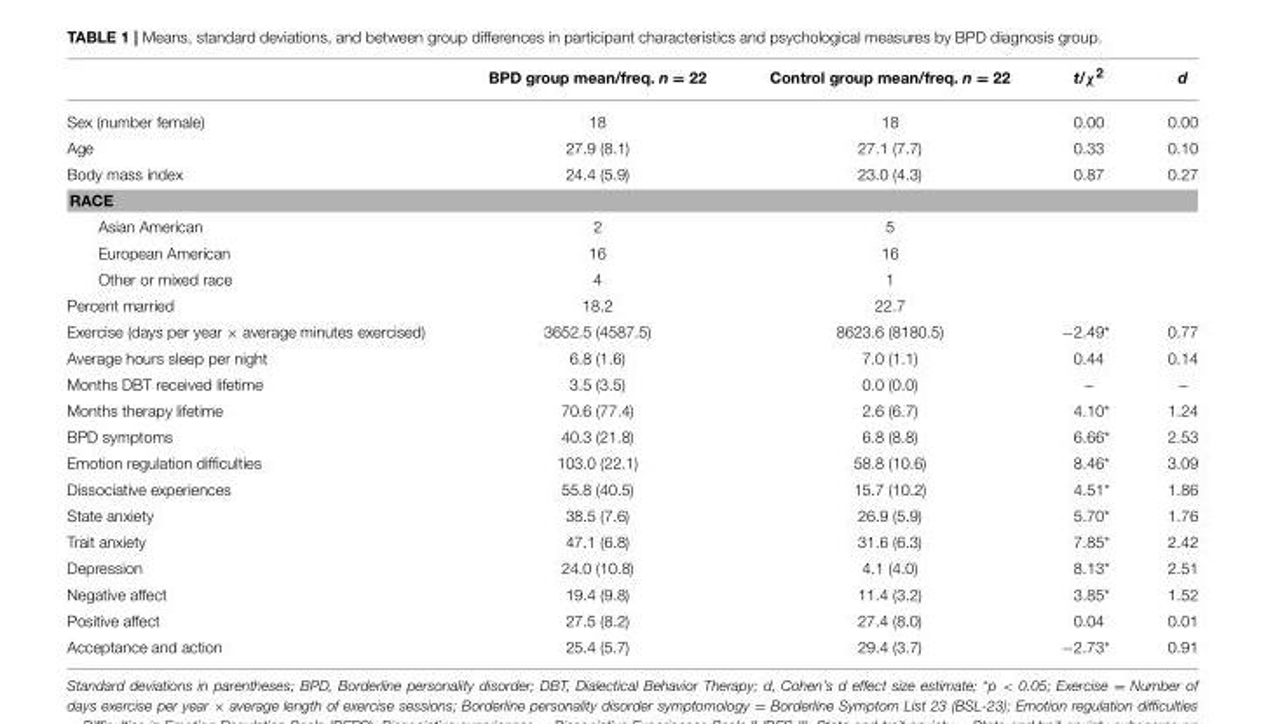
<table><thead><tr><td></td><td>BPD group mean/freq. n = 22</td><td>Control group mean/freq. n = 22</td><td>t/χ<sup>2</sup></td><td>d</td></tr></thead><tbody><tr><td>Sex (number female)</td><td>18</td><td>18</td><td>0.00</td><td>0.00</td></tr><tr><td>Age</td><td>27.9 (8.1)</td><td>27.1 (7.7)</td><td>0.33</td><td>0.10</td></tr><tr><td>Body mass index</td><td>24.4 (5.9)</td><td>23.0 (4.3)</td><td>0.87</td><td>0.27</td></tr><tr><td colspan="5">RACE</td></tr><tr><td>Asian American</td><td>2</td><td>5</td><td></td><td></td></tr><tr><td>European American</td><td>16</td><td>16</td><td></td><td></td></tr><tr><td>Other or mixed race</td><td>4</td><td>1</td><td></td><td></td></tr><tr><td>Percent married</td><td>18.2</td><td>22.7</td><td></td><td></td></tr><tr><td>Exercise (days per year × average minutes exercised)</td><td>3652.5 (4587.5)</td><td>8623.6 (8180.5)</td><td>−2.49*</td><td>0.77</td></tr><tr><td>Average hours sleep per night</td><td>6.8 (1.6)</td><td>7.0 (1.1)</td><td>0.44</td><td>0.14</td></tr><tr><td>Months DBT received lifetime</td><td>3.5 (3.5)</td><td>0.0 (0.0)</td><td>–</td><td>–</td></tr><tr><td>Months therapy lifetime</td><td>70.6 (77.4)</td><td>2.6 (6.7)</td><td>4.10*</td><td>1.24</td></tr><tr><td>BPD symptoms</td><td>40.3 (21.8)</td><td>6.8 (8.8)</td><td>6.66*</td><td>2.53</td></tr><tr><td>Emotion regulation difficulties</td><td>103.0 (22.1)</td><td>58.8 (10.6)</td><td>8.46*</td><td>3.09</td></tr><tr><td>Dissociative experiences</td><td>55.8 (40.5)</td><td>15.7 (10.2)</td><td>4.51*</td><td>1.86</td></tr><tr><td>State anxiety</td><td>38.5 (7.6)</td><td>26.9 (5.9)</td><td>5.70*</td><td>1.76</td></tr><tr><td>Trait anxiety</td><td>47.1 (6.8)</td><td>31.6 (6.3)</td><td>7.85*</td><td>2.42</td></tr><tr><td>Depression</td><td>24.0 (10.8)</td><td>4.1 (4.0)</td><td>8.13*</td><td>2.51</td></tr><tr><td>Negative affect</td><td>19.4 (9.8)</td><td>11.4 (3.2)</td><td>3.85*</td><td>1.52</td></tr><tr><td>Positive affect</td><td>27.5 (8.2)</td><td>27.4 (8.0)</td><td>0.04</td><td>0.01</td></tr><tr><td>Acceptance and action</td><td>25.4 (5.7)</td><td>29.4 (3.7)</td><td>−2.73*</td><td>0.91</td></tr></tbody></table>